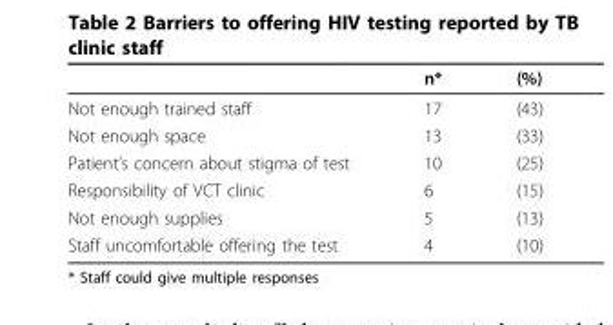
<table><thead><tr><td></td><td>n*</td><td>(%)</td></tr></thead><tbody><tr><td>Not enough trained staff</td><td>17</td><td>(43)</td></tr><tr><td>Not enough space</td><td>13</td><td>(33)</td></tr><tr><td>Patient’s concern about stigma of test</td><td>10</td><td>(25)</td></tr><tr><td>Responsibility of VCT clinic</td><td>6</td><td>(15)</td></tr><tr><td>Not enough supplies</td><td>5</td><td>(13)</td></tr><tr><td>Staff uncomfortable offering the test</td><td>4</td><td>(10)</td></tr></tbody></table>